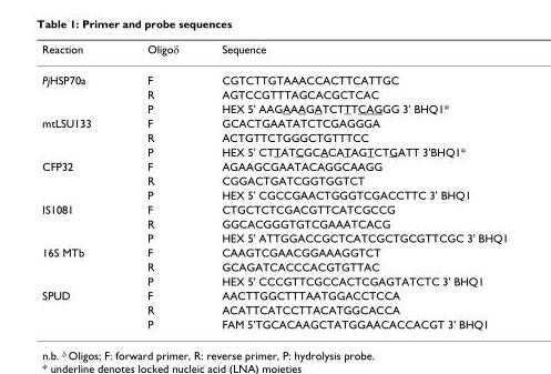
<table><thead><tr><td>Reaction</td><td>Oligoδ</td><td>Sequence</td></tr></thead><tbody><tr><td rowspan="3">PjHSP70a</td><td>F</td><td>CGTCTTGTAAACCACTTCATTGC</td></tr><tr><td>R</td><td>AGTCCGTTTAGCACGCTCAC</td></tr><tr><td>P</td><td>HEX 5&#x27; AAGAAAGATCTTTCAGGG 3&#x27; BHQ1*</td></tr><tr><td rowspan="3">mtLSU133</td><td>F</td><td>GCACTGAATATCTCGAGGGA</td></tr><tr><td>R</td><td>ACTGTTCTGGGCTGTTTCC</td></tr><tr><td>P</td><td>HEX 5&#x27; CTTATCGCACATAGTCTGATT 3&#x27;BHQ1*</td></tr><tr><td rowspan="3">CFP32</td><td>F</td><td>AGAAGCGAATACAGGCAAGG</td></tr><tr><td>R</td><td>CGGACTGATCGGTGGTCT</td></tr><tr><td>P</td><td>HEX 5&#x27; CGCCGAACTGGGTCGACCTTC 3&#x27; BHQ1</td></tr><tr><td rowspan="3">IS1081</td><td>F</td><td>CTGCTCTCGACGTTCATCGCCG</td></tr><tr><td>R</td><td>GGCACGGGTGTCGAAATCACG</td></tr><tr><td>P</td><td>HEX 5&#x27; ATTGGACCGCTCATCGCTGCGTTCGC 3&#x27; BHQ1</td></tr><tr><td rowspan="3">16S MTb</td><td>F</td><td>CAAGTCGAACGGAAAGGTCT</td></tr><tr><td>R</td><td>GCAGATCACCCACGTGTTAC</td></tr><tr><td>P</td><td>HEX 5&#x27; CCCGTTCGCCACTCGAGTATCTC 3&#x27; BHQ1</td></tr><tr><td rowspan="3">SPUD</td><td>F</td><td>AACTTGGCTTTAATGGACCTCCA</td></tr><tr><td>R</td><td>ACATTCATCCTTACATGGCACCA</td></tr><tr><td>P</td><td>FAM 5&#x27;TGCACAAGCTATGGAACACCACGT 3&#x27; BHQ1</td></tr></tbody></table>